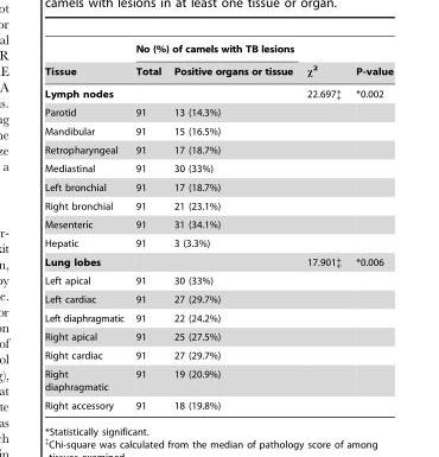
<table><thead><tr><td rowspan="2">Tissue</td><td colspan="2">No (%) of camels with TB lesions</td><td rowspan="2">χ<sup>2</sup></td><td rowspan="2">P-value</td></tr><tr><td>Total</td><td>Positive organs or tissue</td></tr></thead><tbody><tr><td>Lymph nodes</td><td></td><td></td><td>22.697‡</td><td>*0.002</td></tr><tr><td>Parotid</td><td>91</td><td>13 (14.3%)</td><td></td><td></td></tr><tr><td>Mandibular</td><td>91</td><td>15 (16.5%)</td><td></td><td></td></tr><tr><td>Retropharyngeal</td><td>91</td><td>17 (18.7%)</td><td></td><td></td></tr><tr><td>Mediastinal</td><td>91</td><td>30 (33%)</td><td></td><td></td></tr><tr><td>Left bronchial</td><td>91</td><td>17 (18.7%)</td><td></td><td></td></tr><tr><td>Right bronchial</td><td>91</td><td>21 (23.1%)</td><td></td><td></td></tr><tr><td>Mesenteric</td><td>91</td><td>31 (34.1%)</td><td></td><td></td></tr><tr><td>Hepatic</td><td>91</td><td>3 (3.3%)</td><td></td><td></td></tr><tr><td>Lung lobes</td><td></td><td></td><td>17.901‡</td><td>*0.006</td></tr><tr><td>Left apical</td><td>91</td><td>30 (33%)</td><td></td><td></td></tr><tr><td>Left cardiac</td><td>91</td><td>27 (29.7%)</td><td></td><td></td></tr><tr><td>Left diaphragmatic</td><td>91</td><td>22 (24.2%)</td><td></td><td></td></tr><tr><td>Right apical</td><td>91</td><td>25 (27.5%)</td><td></td><td></td></tr><tr><td>Right cardiac</td><td>91</td><td>27 (29.7%)</td><td></td><td></td></tr><tr><td>Right diaphragmatic</td><td>91</td><td>19 (20.9%)</td><td></td><td></td></tr><tr><td>Right accessory</td><td>91</td><td>18 (19.8%)</td><td></td><td></td></tr></tbody></table>